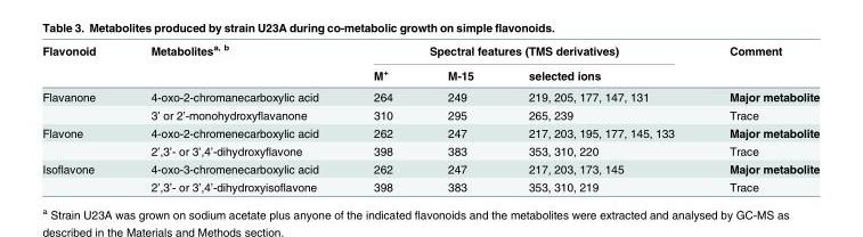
<table><thead><tr><td rowspan="2">Flavonoid</td><td rowspan="2">Metabolites<sup>a, b</sup></td><td colspan="3">Spectral features (TMS derivatives)</td><td rowspan="2">Comment</td></tr><tr><td>M<sup>+</sup></td><td>M-15</td><td>selected ions</td></tr></thead><tbody><tr><td rowspan="2">Flavanone</td><td>4-oxo-2-chromanecarboxylic acid</td><td>264</td><td>249</td><td>219, 205, 177, 147, 131</td><td>Major metabolite</td></tr><tr><td>3’ or 2’-monohydroxyflavanone</td><td>310</td><td>295</td><td>265, 239</td><td>Trace</td></tr><tr><td rowspan="2">Flavone</td><td>4-oxo-2-chromenecarboxylic acid</td><td>262</td><td>247</td><td>217, 203, 195, 177, 145, 133</td><td>Major metabolite</td></tr><tr><td>2’,3’- or 3’,4’-dihydroxyflavone</td><td>398</td><td>383</td><td>353, 310, 220</td><td>Trace</td></tr><tr><td rowspan="2">Isoflavone</td><td>4-oxo-3-chromenecarboxylic acid</td><td>262</td><td>247</td><td>217, 203, 173, 145</td><td>Major metabolite</td></tr><tr><td>2’,3’- or 3’,4’-dihydroxyisoflavone</td><td>398</td><td>383</td><td>353, 310, 219</td><td>Trace</td></tr></tbody></table>